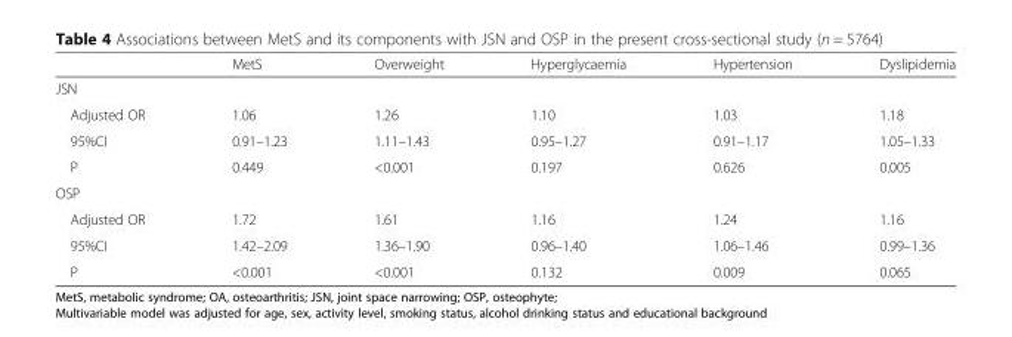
<table><thead><tr><td></td><td>MetS</td><td>Overweight</td><td>Hyperglycaemia</td><td>Hypertension</td><td>Dyslipidemia</td></tr></thead><tbody><tr><td colspan="6">JSN</td></tr><tr><td>Adjusted OR</td><td>1.06</td><td>1.26</td><td>1.10</td><td>1.03</td><td>1.18</td></tr><tr><td>95%CI</td><td>0.91–1.23</td><td>1.11–1.43</td><td>0.95–1.27</td><td>0.91–1.17</td><td>1.05–1.33</td></tr><tr><td>P</td><td>0.449</td><td>&lt;0.001</td><td>0.197</td><td>0.626</td><td>0.005</td></tr><tr><td colspan="6">OSP</td></tr><tr><td>Adjusted OR</td><td>1.72</td><td>1.61</td><td>1.16</td><td>1.24</td><td>1.16</td></tr><tr><td>95%CI</td><td>1.42–2.09</td><td>1.36–1.90</td><td>0.96–1.40</td><td>1.06–1.46</td><td>0.99–1.36</td></tr><tr><td>P</td><td>&lt;0.001</td><td>&lt;0.001</td><td>0.132</td><td>0.009</td><td>0.065</td></tr></tbody></table>